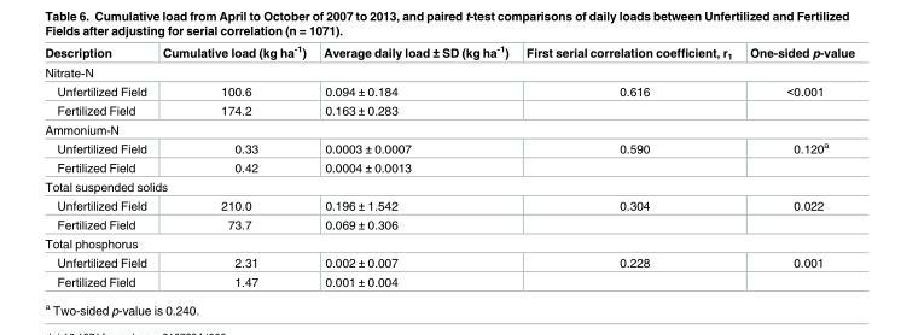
<table><thead><tr><td>Description</td><td>Cumulative load (kg ha<sup>-1</sup>)</td><td>Average daily load ± SD (kg ha<sup>-1</sup>)</td><td>First serial correlation coefficient, r<sub>1</sub></td><td>One-sided p-value</td></tr></thead><tbody><tr><td colspan="5">Nitrate-N</td></tr><tr><td>Unfertilized Field</td><td>100.6</td><td>0.094 ± 0.184</td><td>0.616</td><td>&lt;0.001</td></tr><tr><td>Fertilized Field</td><td>174.2</td><td>0.163 ± 0.283</td><td></td><td></td></tr><tr><td colspan="5">Ammonium-N</td></tr><tr><td>Unfertilized Field</td><td>0.33</td><td>0.0003 ± 0.0007</td><td>0.590</td><td>0.120<sup>a</sup></td></tr><tr><td>Fertilized Field</td><td>0.42</td><td>0.0004 ± 0.0013</td><td></td><td></td></tr><tr><td colspan="5">Total suspended solids</td></tr><tr><td>Unfertilized Field</td><td>210.0</td><td>0.196 ± 1.542</td><td>0.304</td><td>0.022</td></tr><tr><td>Fertilized Field</td><td>73.7</td><td>0.069 ± 0.306</td><td></td><td></td></tr><tr><td colspan="5">Total phosphorus</td></tr><tr><td>Unfertilized Field</td><td>2.31</td><td>0.002 ± 0.007</td><td>0.228</td><td>0.001</td></tr><tr><td>Fertilized Field</td><td>1.47</td><td>0.001 ± 0.004</td><td></td><td></td></tr></tbody></table>